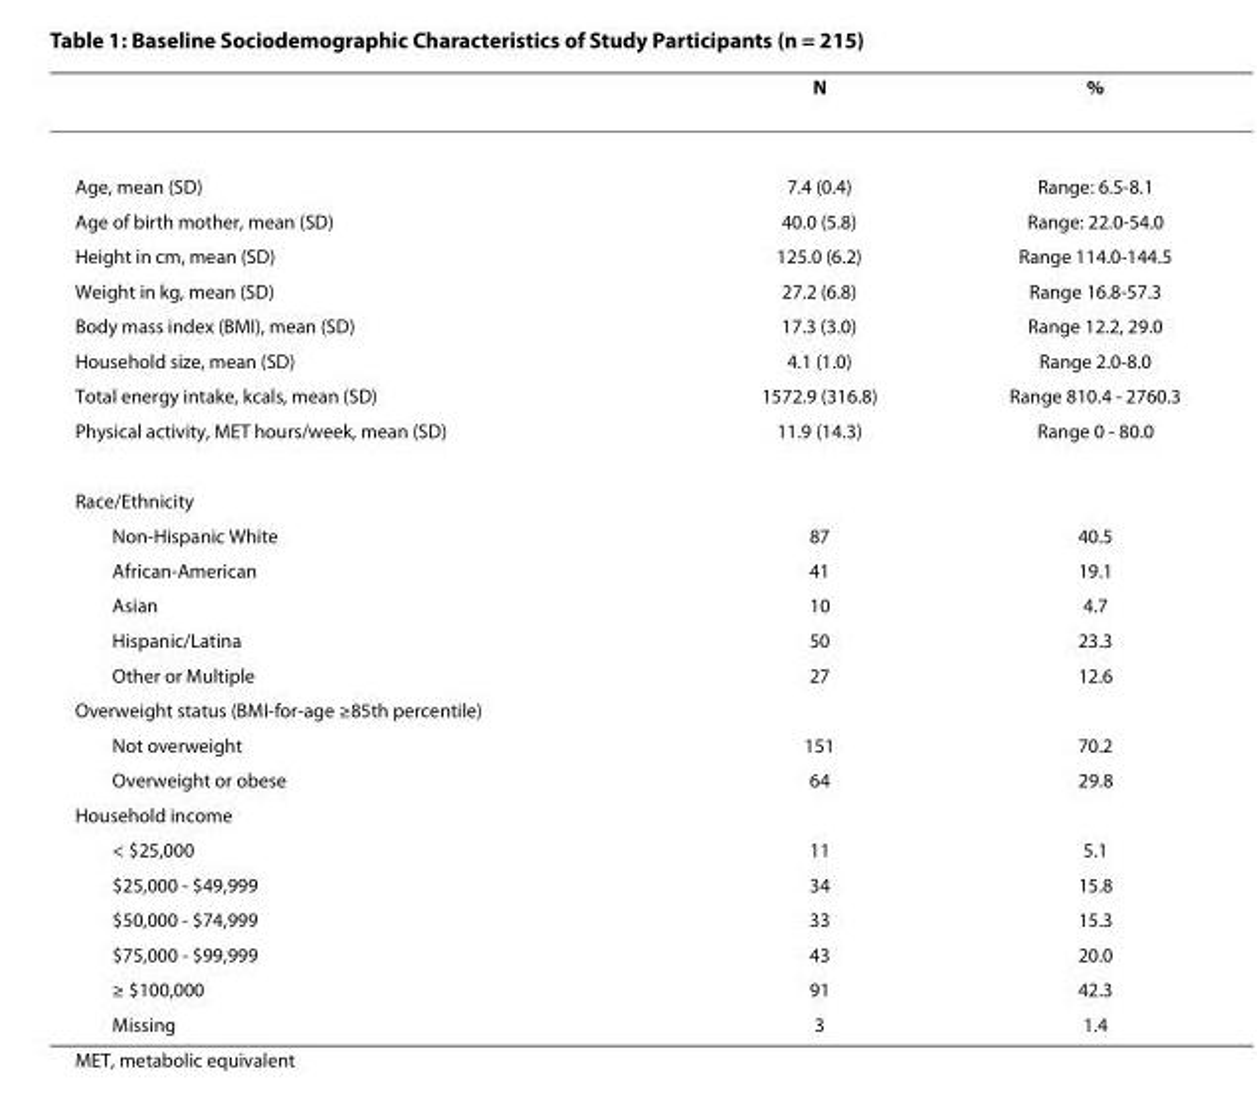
<table><thead><tr><td></td><td>N</td><td>%</td></tr></thead><tbody><tr><td>Age, mean (SD)</td><td>7.4 (0.4)</td><td>Range: 6.5-8.1</td></tr><tr><td>Age of birth mother, mean (SD)</td><td>40.0 (5.8)</td><td>Range: 22.0-54.0</td></tr><tr><td>Height in cm, mean (SD)</td><td>125.0 (6.2)</td><td>Range 114.0-144.5</td></tr><tr><td>Weight in kg, mean (SD)</td><td>27.2 (6.8)</td><td>Range 16.8-57.3</td></tr><tr><td>Body mass index (BMI), mean (SD)</td><td>17.3 (3.0)</td><td>Range 12.2, 29.0</td></tr><tr><td>Household size, mean (SD)</td><td>4.1 (1.0)</td><td>Range 2.0-8.0</td></tr><tr><td>Total energy intake, kcals, mean (SD)</td><td>1572.9 (316.8)</td><td>Range 810.4 - 2760.3</td></tr><tr><td>Physical activity, MET hours/week, mean (SD)</td><td>11.9 (14.3)</td><td>Range 0 - 80.0</td></tr><tr><td colspan="3">Race/Ethnicity</td></tr><tr><td>Non-Hispanic White</td><td>87</td><td>40.5</td></tr><tr><td>African-American</td><td>41</td><td>19.1</td></tr><tr><td>Asian</td><td>10</td><td>4.7</td></tr><tr><td>Hispanic/Latina</td><td>50</td><td>23.3</td></tr><tr><td>Other or Multiple</td><td>27</td><td>12.6</td></tr><tr><td colspan="3">Overweight status (BMI-for-age ≥85th percentile)</td></tr><tr><td>Not overweight</td><td>151</td><td>70.2</td></tr><tr><td>Overweight or obese</td><td>64</td><td>29.8</td></tr><tr><td colspan="3">Household income</td></tr><tr><td>&lt; $25,000</td><td>11</td><td>5.1</td></tr><tr><td>$25,000 - $49,999</td><td>34</td><td>15.8</td></tr><tr><td>$50,000 - $74,999</td><td>33</td><td>15.3</td></tr><tr><td>$75,000 - $99,999</td><td>43</td><td>20.0</td></tr><tr><td>≥ $100,000</td><td>91</td><td>42.3</td></tr><tr><td>Missing</td><td>3</td><td>1.4</td></tr></tbody></table>